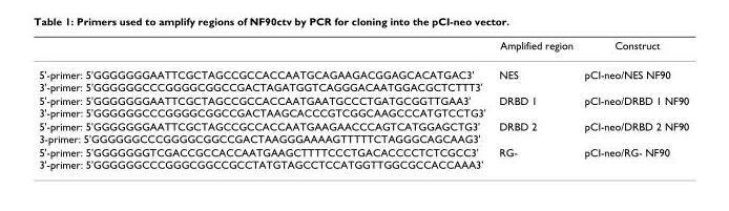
<table><thead><tr><td></td><td>Amplified region</td><td>Construct</td></tr></thead><tbody><tr><td>5&#x27;-primer: 5&#x27;GGGGGGGAATTCGCTAGCCGCCACCAATGCAGAAGACGGAGCACATGAC3&#x27; 3&#x27;-primer: 5&#x27;GGGGGGCCCGGGGCGGCCGACTAGATGGTCAGGGACAATGGACGCTCTTT3&#x27;</td><td>NES</td><td>pCI-neo/NES NF90</td></tr><tr><td>5&#x27;-primer: 5&#x27;GGGGGGGAATTCGCTAGCCGCCACCAATGAATGCCCTGATGCGGTTGAA3&#x27; 3&#x27;-primer: 5&#x27;GGGGGGCCCGGGGCGGCCGACTAAGCACCCGTCGGCAAGCCCATGTCCTG3&#x27;</td><td>DRBD 1</td><td>pCI-neo/DRBD 1 NF90</td></tr><tr><td>5&#x27;-primer: 5&#x27;GGGGGGGAATTCGCTAGCCGCCACCAATGAAGAACCCAGTCATGGAGCTG3&#x27; 3-primer: 5&#x27;GGGGGGCCCGGGGCGGCCGACTAAGGGAAAAGTTTTTCTAGGGCAGCAAG3&#x27;</td><td>DRBD 2</td><td>pCI-neo/DRBD 2 NF90</td></tr><tr><td>5&#x27;-primer: 5&#x27;GGGGGGGTCGACCGCCACCAATGAAGCTTTTCCCTGACACCCCTCTCGCC3&#x27; 3&#x27;-primer: 5&#x27;GGGGGGCCCGGGCGGCCGCCTATGTAGCCTCCATGGTTGGCGCCACCAAA3&#x27;</td><td>RG-</td><td>pCI-neo/RG- NF90</td></tr></tbody></table>